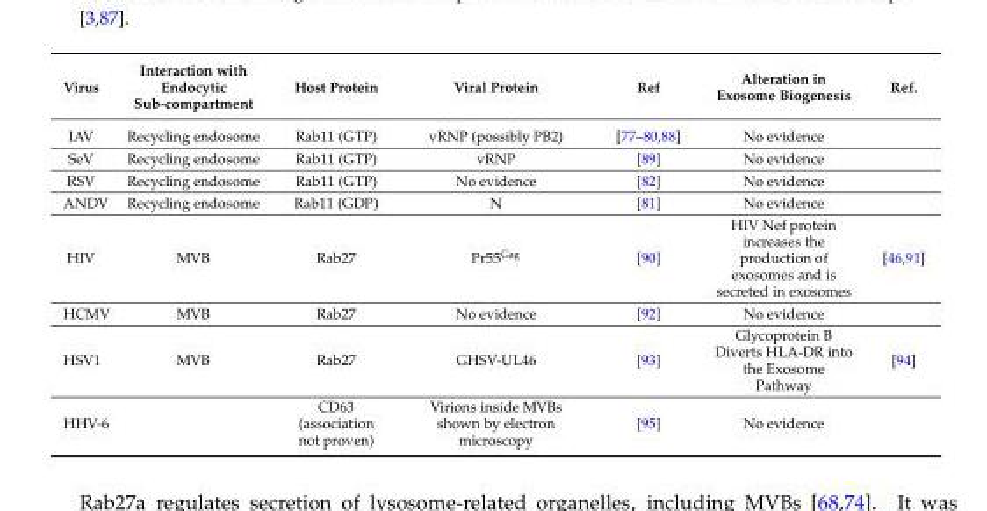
<table><thead><tr><td>Virus</td><td>Interaction with Endocytic Sub-compartment</td><td>Host Protein</td><td>Viral Protein</td><td>Ref</td><td>Alteration in Exosome Biogenesis</td><td>Ref.</td></tr></thead><tbody><tr><td>IAV</td><td>Recycling endosome</td><td>Rab11 (GTP)</td><td>vRNP (possibly PB2)</td><td>[77–80,88]</td><td>No evidence</td><td></td></tr><tr><td>SeV</td><td>Recycling endosome</td><td>Rab11 (GTP)</td><td>vRNP</td><td>[89]</td><td>No evidence</td><td></td></tr><tr><td>RSV</td><td>Recycling endosome</td><td>Rab11 (GTP)</td><td>No evidence</td><td>[82]</td><td>No evidence</td><td></td></tr><tr><td>ANDV</td><td>Recycling endosome</td><td>Rab11 (GDP)</td><td>N</td><td>[81]</td><td>No evidence</td><td></td></tr><tr><td>HIV</td><td>MVB</td><td>Rab27</td><td>Pr55<sup>Gag</sup></td><td>[90]</td><td>HIV Nef protein increases the production of exosomes and is secreted in exosomes</td><td>[46,91]</td></tr><tr><td>HCMV</td><td>MVB</td><td>Rab27</td><td>No evidence</td><td>[92]</td><td>No evidence</td><td></td></tr><tr><td>HSV1</td><td>MVB</td><td>Rab27</td><td>GHSV-UL46</td><td>[93]</td><td>Glycoprotein B Diverts HLA-DR into the Exosome Pathway</td><td>[94]</td></tr><tr><td>HHV-6</td><td></td><td>CD63 (association not proven)</td><td>Virions inside MVBs shown by electron microscopy</td><td>[95]</td><td>No evidence</td><td></td></tr></tbody></table>